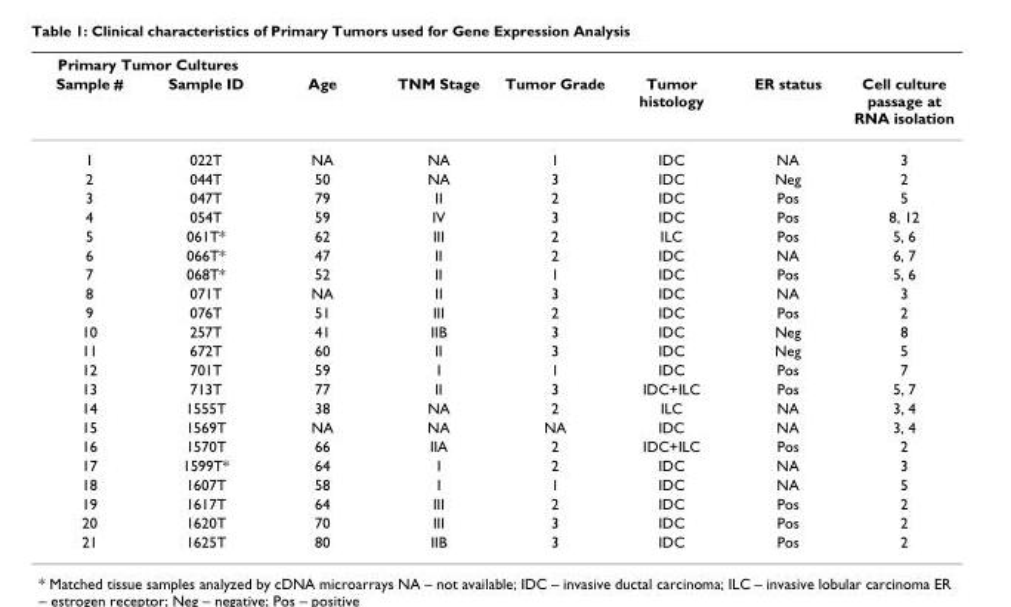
<table><thead><tr><td colspan="2">Primary Tumor Cultures</td><td rowspan="2">Age</td><td rowspan="2">TNM Stage</td><td rowspan="2">Tumor Grade</td><td rowspan="2">Tumor histology</td><td rowspan="2">ER status</td><td rowspan="2">Cell culture passage at RNA isolation</td></tr><tr><td>Sample #</td><td>Sample ID</td></tr></thead><tbody><tr><td>1</td><td>022T</td><td>NA</td><td>NA</td><td>1</td><td>IDC</td><td>NA</td><td>3</td></tr><tr><td>2</td><td>044T</td><td>50</td><td>NA</td><td>3</td><td>IDC</td><td>Neg</td><td>2</td></tr><tr><td>3</td><td>047T</td><td>79</td><td>II</td><td>2</td><td>IDC</td><td>Pos</td><td>5</td></tr><tr><td>4</td><td>054T</td><td>59</td><td>IV</td><td>3</td><td>IDC</td><td>Pos</td><td>8, 12</td></tr><tr><td>5</td><td>061T*</td><td>62</td><td>III</td><td>2</td><td>ILC</td><td>Pos</td><td>5, 6</td></tr><tr><td>6</td><td>066T*</td><td>47</td><td>II</td><td>2</td><td>IDC</td><td>NA</td><td>6, 7</td></tr><tr><td>7</td><td>068T*</td><td>52</td><td>II</td><td>1</td><td>IDC</td><td>Pos</td><td>5, 6</td></tr><tr><td>8</td><td>071T</td><td>NA</td><td>II</td><td>3</td><td>IDC</td><td>NA</td><td>3</td></tr><tr><td>9</td><td>076T</td><td>51</td><td>III</td><td>2</td><td>IDC</td><td>Pos</td><td>2</td></tr><tr><td>10</td><td>257T</td><td>41</td><td>IIB</td><td>3</td><td>IDC</td><td>Neg</td><td>8</td></tr><tr><td>11</td><td>672T</td><td>60</td><td>II</td><td>3</td><td>IDC</td><td>Neg</td><td>5</td></tr><tr><td>12</td><td>701T</td><td>59</td><td>I</td><td>1</td><td>IDC</td><td>Pos</td><td>7</td></tr><tr><td>13</td><td>713T</td><td>77</td><td>II</td><td>3</td><td>IDC+ILC</td><td>Pos</td><td>5, 7</td></tr><tr><td>14</td><td>1555T</td><td>38</td><td>NA</td><td>2</td><td>ILC</td><td>NA</td><td>3, 4</td></tr><tr><td>15</td><td>1569T</td><td>NA</td><td>NA</td><td>NA</td><td>IDC</td><td>NA</td><td>3, 4</td></tr><tr><td>16</td><td>1570T</td><td>66</td><td>IIA</td><td>2</td><td>IDC+ILC</td><td>Pos</td><td>2</td></tr><tr><td>17</td><td>1599T*</td><td>64</td><td>I</td><td>2</td><td>IDC</td><td>NA</td><td>3</td></tr><tr><td>18</td><td>1607T</td><td>58</td><td>I</td><td>1</td><td>IDC</td><td>NA</td><td>5</td></tr><tr><td>19</td><td>1617T</td><td>64</td><td>III</td><td>2</td><td>IDC</td><td>Pos</td><td>2</td></tr><tr><td>20</td><td>1620T</td><td>70</td><td>III</td><td>3</td><td>IDC</td><td>Pos</td><td>2</td></tr><tr><td>21</td><td>1625T</td><td>80</td><td>IIB</td><td>3</td><td>IDC</td><td>Pos</td><td>2</td></tr></tbody></table>